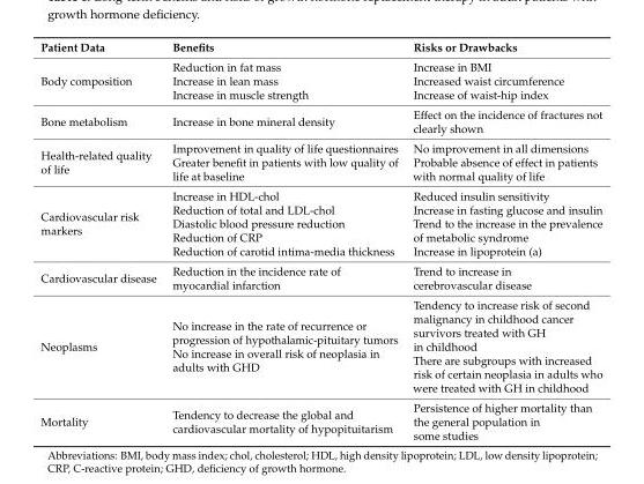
<table><thead><tr><td>Patient Data</td><td>Benefits</td><td>Risks or Drawbacks</td></tr></thead><tbody><tr><td>Body composition</td><td>Reduction in fat mass Increase in lean mass Increase in muscle strength</td><td>Increase in BMI Increased waist circumference Increase of waist-hip index</td></tr><tr><td>Bone metabolism</td><td>Increase in bone mineral density</td><td>Effect on the incidence of fractures not clearly shown</td></tr><tr><td>Health-related quality of life</td><td>Improvement in quality of life questionnaires Greater benefit in patients with low quality of life at baseline</td><td>No improvement in all dimensions Probable absence of effect in patients with normal quality of life</td></tr><tr><td>Cardiovascular risk markers</td><td>Increase in HDL-chol Reduction of total and LDL-chol Diastolic blood pressure reduction Reduction of CRP Reduction of carotid intima-media thickness</td><td>Reduced insulin sensitivity Increase in fasting glucose and insulin Trend to the increase in the prevalence of metabolic syndrome Increase in lipoprotein (a)</td></tr><tr><td>Cardiovascular disease</td><td>Reduction in the incidence rate of myocardial infarction</td><td>Trend to increase in cerebrovascular disease</td></tr><tr><td>Neoplasms</td><td>No increase in the rate of recurrence or progression of hypothalamic-pituitary tumors No increase in overall risk of neoplasia in adults with GHD</td><td>Tendency to increase risk of second malignancy in childhood cancer survivors treated with GH in childhood There are subgroups with increased risk of certain neoplasia in adults who were treated with GH in childhood</td></tr><tr><td>Mortality</td><td>Tendency to decrease the global and cardiovascular mortality of hypopituitarism</td><td>Persistence of higher mortality than the general population in some studies</td></tr></tbody></table>